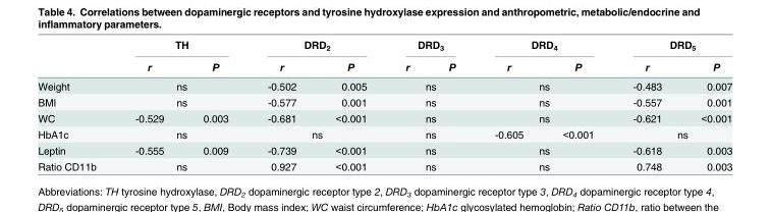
<table><thead><tr><td rowspan="2"></td><td colspan="2">TH</td><td colspan="2">DRD<sub>2</sub></td><td colspan="2">DRD<sub>3</sub></td><td colspan="2">DRD<sub>4</sub></td><td colspan="2">DRD<sub>5</sub></td></tr><tr><td>r</td><td>P</td><td>r</td><td>P</td><td>r</td><td>P</td><td>r</td><td>P</td><td>r</td><td>P</td></tr></thead><tbody><tr><td>Weight</td><td colspan="2">ns</td><td>-0.502</td><td>0.005</td><td colspan="2">ns</td><td colspan="2">ns</td><td>-0.483</td><td>0.007</td></tr><tr><td>BMI</td><td colspan="2">ns</td><td>-0.577</td><td>0.001</td><td colspan="2">ns</td><td colspan="2">ns</td><td>-0.557</td><td>0.001</td></tr><tr><td>WC</td><td>-0.529</td><td>0.003</td><td>-0.681</td><td>&lt;0.001</td><td colspan="2">ns</td><td colspan="2">ns</td><td>-0.621</td><td>&lt;0.001</td></tr><tr><td>HbA1c</td><td colspan="2">ns</td><td colspan="2">ns</td><td colspan="2">ns</td><td>-0.605</td><td>&lt;0.001</td><td colspan="2">ns</td></tr><tr><td>Leptin</td><td>-0.555</td><td>0.009</td><td>-0.739</td><td>&lt;0.001</td><td colspan="2">ns</td><td colspan="2">ns</td><td>-0.618</td><td>0.003</td></tr><tr><td>Ratio CD11b</td><td colspan="2">ns</td><td>0.927</td><td>&lt;0.001</td><td colspan="2">ns</td><td colspan="2">ns</td><td>0.748</td><td>0.003</td></tr></tbody></table>